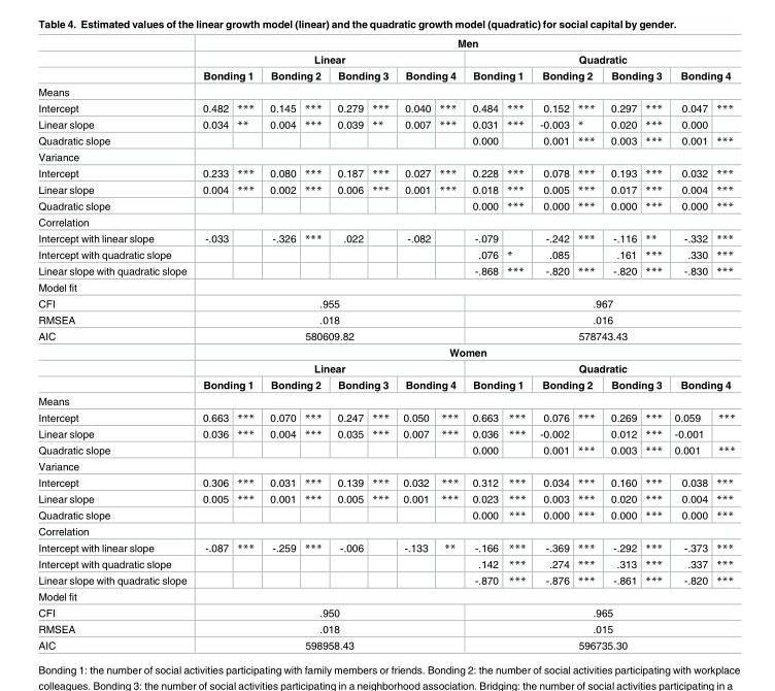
<table><thead><tr><td></td><td colspan="16">Men</td></tr></thead><tbody><tr><td></td><td colspan="8">Linear</td><td colspan="8">Quadratic</td></tr><tr><td></td><td colspan="2">Bonding 1</td><td colspan="2">Bonding 2</td><td colspan="2">Bonding 3</td><td colspan="2">Bonding 4</td><td colspan="2">Bonding 1</td><td colspan="2">Bonding 2</td><td colspan="2">Bonding 3</td><td colspan="2">Bonding 4</td></tr><tr><td colspan="17">Means</td></tr><tr><td>Intercept</td><td>0.482</td><td>***</td><td>0.145</td><td>***</td><td>0.279</td><td>***</td><td>0.040</td><td>***</td><td>0.484</td><td>***</td><td>0.152</td><td>***</td><td>0.297</td><td>***</td><td>0.047</td><td>***</td></tr><tr><td>Linear slope</td><td>0.034</td><td>**</td><td>0.004</td><td>***</td><td>0.039</td><td>**</td><td>0.007</td><td>***</td><td>0.031</td><td>***</td><td>-0.003</td><td>*</td><td>0.020</td><td>***</td><td>0.000</td><td></td></tr><tr><td>Quadratic slope</td><td></td><td></td><td></td><td></td><td></td><td></td><td></td><td></td><td>0.000</td><td></td><td>0.001</td><td>***</td><td>0.003</td><td>***</td><td>0.001</td><td>***</td></tr><tr><td colspan="17">Variance</td></tr><tr><td>Intercept</td><td>0.233</td><td>***</td><td>0.080</td><td>***</td><td>0.187</td><td>***</td><td>0.027</td><td>***</td><td>0.228</td><td>***</td><td>0.078</td><td>***</td><td>0.193</td><td>***</td><td>0.032</td><td>***</td></tr><tr><td>Linear slope</td><td>0.004</td><td>***</td><td>0.002</td><td>***</td><td>0.006</td><td>***</td><td>0.001</td><td>***</td><td>0.018</td><td>***</td><td>0.005</td><td>***</td><td>0.017</td><td>***</td><td>0.004</td><td>***</td></tr><tr><td>Quadratic slope</td><td></td><td></td><td></td><td></td><td></td><td></td><td></td><td></td><td>0.000</td><td>***</td><td>0.000</td><td>***</td><td>0.000</td><td>***</td><td>0.000</td><td>***</td></tr><tr><td colspan="17">Correlation</td></tr><tr><td>Intercept with linear slope</td><td>-.033</td><td></td><td>-.326</td><td>***</td><td>.022</td><td></td><td>-.082</td><td></td><td>-.079</td><td></td><td>-.242</td><td>***</td><td>-.116</td><td>**</td><td>-.332</td><td>***</td></tr><tr><td>Intercept with quadratic slope</td><td></td><td></td><td></td><td></td><td></td><td></td><td></td><td></td><td>.076</td><td>*</td><td>.085</td><td></td><td>.161</td><td>***</td><td>.330</td><td>***</td></tr><tr><td>Linear slope with quadratic slope</td><td></td><td></td><td></td><td></td><td></td><td></td><td></td><td></td><td>-.868</td><td>***</td><td>-.820</td><td>***</td><td>-.820</td><td>***</td><td>-.830</td><td>***</td></tr><tr><td colspan="17">Model fit</td></tr><tr><td>CFI</td><td colspan="8">.955</td><td colspan="8">.967</td></tr><tr><td>RMSEA</td><td colspan="8">.018</td><td colspan="8">.016</td></tr><tr><td rowspan="4">AIC</td><td colspan="8">580609.82</td><td colspan="8">578743.43</td></tr><tr><td colspan="16">Women</td></tr><tr><td colspan="8">Linear</td><td colspan="8">Quadratic</td></tr><tr><td colspan="2">Bonding 1</td><td colspan="2">Bonding 2</td><td colspan="2">Bonding 3</td><td colspan="2">Bonding 4</td><td colspan="2">Bonding 1</td><td colspan="2">Bonding 2</td><td colspan="2">Bonding 3</td><td colspan="2">Bonding 4</td></tr><tr><td colspan="17">Means</td></tr><tr><td>Intercept</td><td>0.663</td><td>***</td><td>0.070</td><td>***</td><td>0.247</td><td>***</td><td>0.050</td><td>***</td><td>0.663</td><td>***</td><td>0.076</td><td>***</td><td>0.269</td><td>***</td><td>0.059</td><td>***</td></tr><tr><td>Linear slope</td><td>0.036</td><td>***</td><td>0.004</td><td>***</td><td>0.035</td><td>***</td><td>0.007</td><td>***</td><td>0.036</td><td>***</td><td>-0.002</td><td></td><td>0.012</td><td>***</td><td>-0.001</td><td></td></tr><tr><td>Quadratic slope</td><td></td><td></td><td></td><td></td><td></td><td></td><td></td><td></td><td>0.000</td><td></td><td>0.001</td><td>***</td><td>0.003</td><td>***</td><td>0.001</td><td>***</td></tr><tr><td colspan="17">Variance</td></tr><tr><td>Intercept</td><td>0.306</td><td>***</td><td>0.031</td><td>***</td><td>0.139</td><td>***</td><td>0.032</td><td>***</td><td>0.312</td><td>***</td><td>0.034</td><td>***</td><td>0.160</td><td>***</td><td>0.038</td><td>***</td></tr><tr><td>Linear slope</td><td>0.005</td><td>***</td><td>0.001</td><td>***</td><td>0.005</td><td>***</td><td>0.001</td><td>***</td><td>0.023</td><td>***</td><td>0.003</td><td>***</td><td>0.020</td><td>***</td><td>0.004</td><td>***</td></tr><tr><td>Quadratic slope</td><td></td><td></td><td></td><td></td><td></td><td></td><td></td><td></td><td>0.000</td><td>***</td><td>0.000</td><td>***</td><td>0.000</td><td>***</td><td>0.000</td><td>***</td></tr><tr><td colspan="17">Correlation</td></tr><tr><td>Intercept with linear slope</td><td>-.087</td><td>***</td><td>-.259</td><td>***</td><td>-.006</td><td></td><td>-.133</td><td>**</td><td>-.166</td><td>***</td><td>-.369</td><td>***</td><td>-.292</td><td>***</td><td>-.373</td><td>***</td></tr><tr><td>Intercept with quadratic slope</td><td></td><td></td><td></td><td></td><td></td><td></td><td></td><td></td><td>.142</td><td>***</td><td>.274</td><td>***</td><td>.313</td><td>***</td><td>.337</td><td>***</td></tr><tr><td>Linear slope with quadratic slope</td><td></td><td></td><td></td><td></td><td></td><td></td><td></td><td></td><td>-.870</td><td>***</td><td>-.876</td><td>***</td><td>-.861</td><td>***</td><td>-.820</td><td>***</td></tr><tr><td colspan="17">Model fit</td></tr><tr><td>CFI</td><td colspan="8">.950</td><td colspan="8">.965</td></tr><tr><td>RMSEA</td><td colspan="8">.018</td><td colspan="8">.015</td></tr><tr><td>AIC</td><td colspan="8">598958.43</td><td colspan="8">596735.30</td></tr></tbody></table>